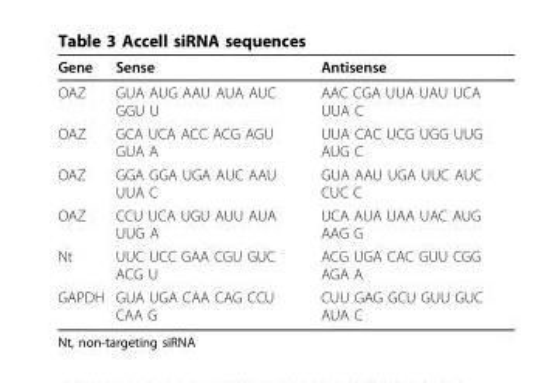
<table><thead><tr><td>Gene</td><td>Sense</td><td>Antisense</td></tr></thead><tbody><tr><td>OAZ</td><td>GUA AUG AAU AUA AUC GGU U</td><td>AAC CGA UUA UAU UCA UUA C</td></tr><tr><td>OAZ</td><td>GCA UCA ACC ACG AGU GUA A</td><td>UUA CAC UCG UGG UUG AUG C</td></tr><tr><td>OAZ</td><td>GGA GGA UGA AUC AAU UUA C</td><td>GUA AAU UGA UUC AUC CUC C</td></tr><tr><td>OAZ</td><td>CCU UCA UGU AUU AUA UUG A</td><td>UCA AUA UAA UAC AUG AAG G</td></tr><tr><td>Nt</td><td>UUC UCC GAA CGU GUC ACG U</td><td>ACG UGA CAC GUU CGG AGA A</td></tr><tr><td>GAPDH</td><td>GUA UGA CAA CAG CCU CAA G</td><td>CUU GAG GCU GUU GUC AUA C</td></tr></tbody></table>